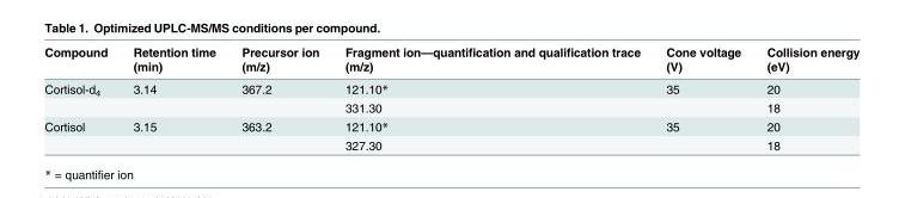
<table><thead><tr><td rowspan="2">Compound</td><td rowspan="2">Retention time (min)</td><td rowspan="2">Precursor ion (m/z)</td><td rowspan="2">Fragment ion—quantification and qualification trace (m/z)</td><td rowspan="2">Cone voltage (V)</td><td rowspan="2">Collision energy (eV)</td></tr><tr></tr></thead><tbody><tr><td rowspan="2">Cortisol-d<sub>4</sub></td><td>3.14</td><td>367.2</td><td>121.10*</td><td>35</td><td>20</td></tr><tr><td></td><td></td><td>331.30</td><td></td><td>18</td></tr><tr><td rowspan="2">Cortisol</td><td>3.15</td><td>363.2</td><td>121.10*</td><td>35</td><td>20</td></tr><tr><td></td><td></td><td>327.30</td><td></td><td>18</td></tr></tbody></table>